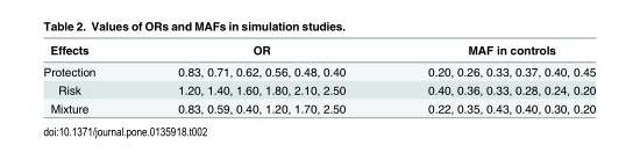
<table><thead><tr><td>Effects</td><td>OR</td><td>MAF in controls</td></tr></thead><tbody><tr><td>Protection</td><td>0.83, 0.71, 0.62, 0.56, 0.48, 0.40</td><td>0.20, 0.26, 0.33, 0.37, 0.40, 0.45</td></tr><tr><td>Risk</td><td>1.20, 1.40, 1.60, 1.80, 2.10, 2.50</td><td>0.40, 0.36, 0.33, 0.28, 0.24, 0.20</td></tr><tr><td>Mixture</td><td>0.83, 0.59, 0.40, 1.20, 1.70, 2.50</td><td>0.22, 0.35, 0.43, 0.40, 0.30, 0.20</td></tr></tbody></table>